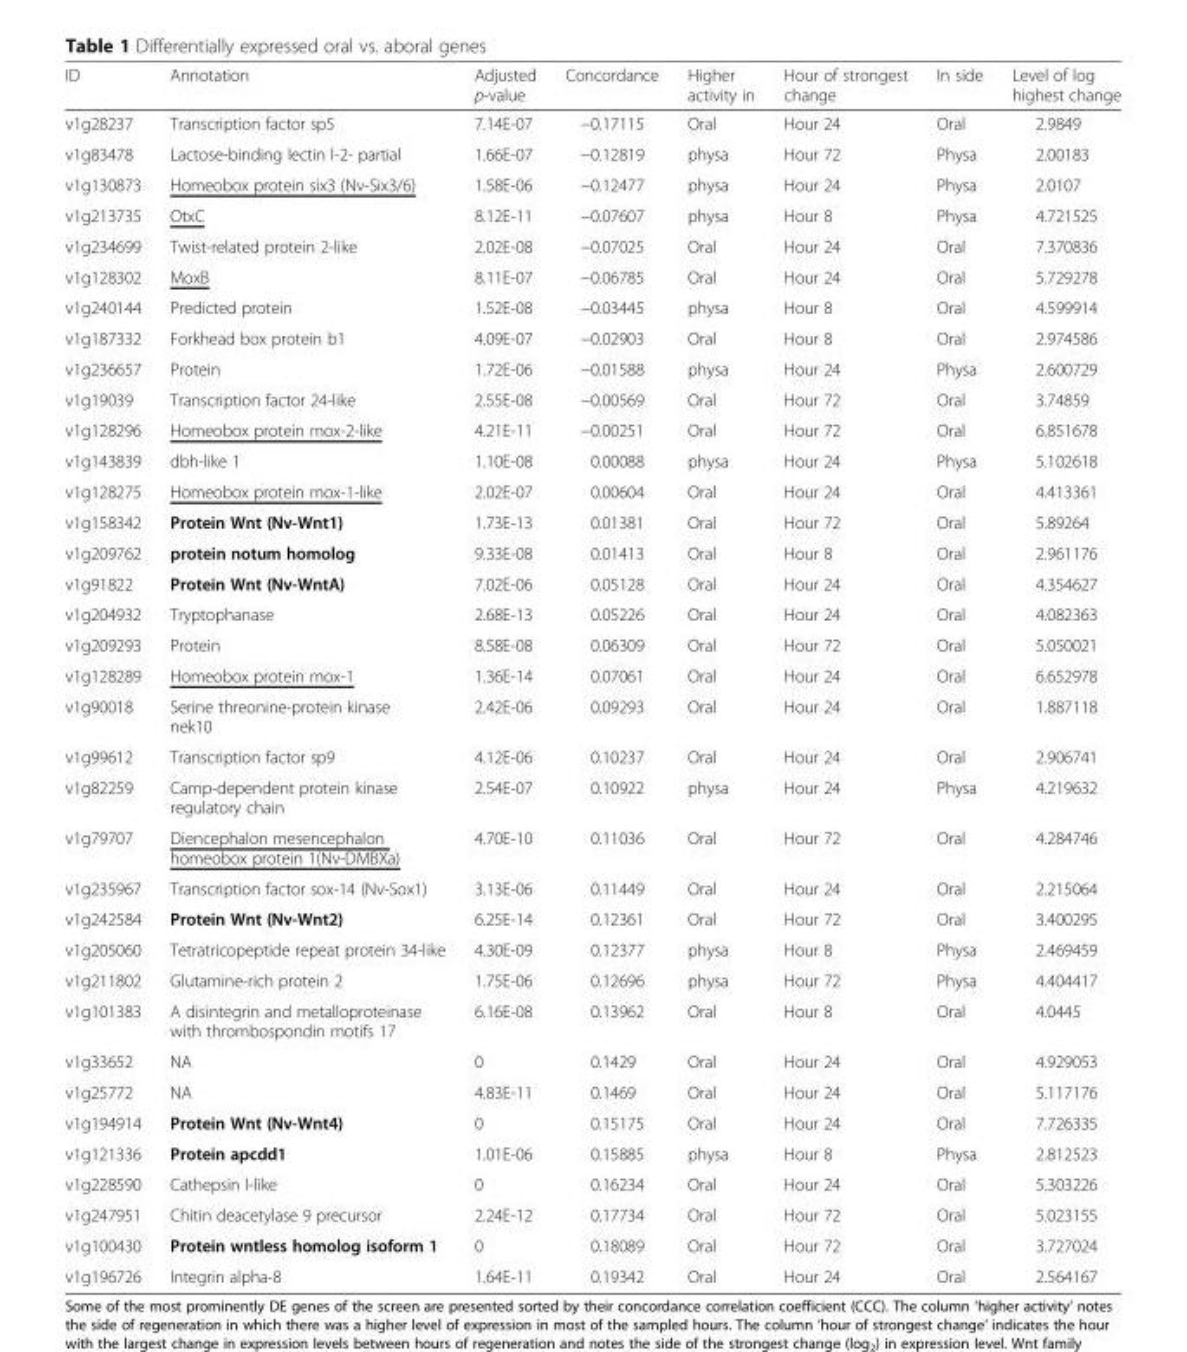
<table><thead><tr><td>ID</td><td>Annotation</td><td>Adjusted p-value</td><td>Concordance</td><td>Higher activity in</td><td>Hour of strongest change</td><td>In side</td><td>Level of log highest change</td></tr></thead><tbody><tr><td>v1g28237</td><td>Transcription factor sp5</td><td>7.14E-07</td><td>−0.17115</td><td>Oral</td><td>Hour 24</td><td>Oral</td><td>2.9849</td></tr><tr><td>v1g83478</td><td>Lactose-binding lectin l-2- partial</td><td>1.66E-07</td><td>−0.12819</td><td>physa</td><td>Hour 72</td><td>Physa</td><td>2.00183</td></tr><tr><td>v1g130873</td><td>Homeobox protein six3 (Nv-Six3/6)</td><td>1.58E-06</td><td>−0.12477</td><td>physa</td><td>Hour 24</td><td>Physa</td><td>2.0107</td></tr><tr><td>v1g213735</td><td>OtxC</td><td>8.12E-11</td><td>−0.07607</td><td>physa</td><td>Hour 8</td><td>Physa</td><td>4.721525</td></tr><tr><td>v1g234699</td><td>Twist-related protein 2-like</td><td>2.02E-08</td><td>−0.07025</td><td>Oral</td><td>Hour 24</td><td>Oral</td><td>7.370836</td></tr><tr><td>v1g128302</td><td>MoxB</td><td>8.11E-07</td><td>−0.06785</td><td>Oral</td><td>Hour 24</td><td>Oral</td><td>5.729278</td></tr><tr><td>v1g240144</td><td>Predicted protein</td><td>1.52E-08</td><td>−0.03445</td><td>physa</td><td>Hour 8</td><td>Oral</td><td>4.599914</td></tr><tr><td>v1g187332</td><td>Forkhead box protein b1</td><td>4.09E-07</td><td>−0.02903</td><td>Oral</td><td>Hour 8</td><td>Oral</td><td>2.974586</td></tr><tr><td>v1g236657</td><td>Protein</td><td>1.72E-06</td><td>−0.01588</td><td>physa</td><td>Hour 24</td><td>Physa</td><td>2.600729</td></tr><tr><td>v1g19039</td><td>Transcription factor 24-like</td><td>2.55E-08</td><td>−0.00569</td><td>Oral</td><td>Hour 72</td><td>Oral</td><td>3.74859</td></tr><tr><td>v1g128296</td><td>Homeobox protein mox-2-like</td><td>4.21E-11</td><td>−0.00251</td><td>Oral</td><td>Hour 72</td><td>Oral</td><td>6.851678</td></tr><tr><td>v1g143839</td><td>dbh-like 1</td><td>1.10E-08</td><td>0.00088</td><td>physa</td><td>Hour 24</td><td>Physa</td><td>5.102618</td></tr><tr><td>v1g128275</td><td>Homeobox protein mox-1-like</td><td>2.02E-07</td><td>0.00604</td><td>Oral</td><td>Hour 24</td><td>Oral</td><td>4.413361</td></tr><tr><td>v1g158342</td><td>Protein Wnt (Nv-Wnt1)</td><td>1.73E-13</td><td>0.01381</td><td>Oral</td><td>Hour 72</td><td>Oral</td><td>5.89264</td></tr><tr><td>v1g209762</td><td>protein notum homolog</td><td>9.33E-08</td><td>0.01413</td><td>Oral</td><td>Hour 8</td><td>Oral</td><td>2.961176</td></tr><tr><td>v1g91822</td><td>Protein Wnt (Nv-WntA)</td><td>7.02E-06</td><td>0.05128</td><td>Oral</td><td>Hour 24</td><td>Oral</td><td>4.354627</td></tr><tr><td>v1g204932</td><td>Tryptophanase</td><td>2.68E-13</td><td>0.05226</td><td>Oral</td><td>Hour 24</td><td>Oral</td><td>4.082363</td></tr><tr><td>v1g209293</td><td>Protein</td><td>8.58E-08</td><td>0.06309</td><td>Oral</td><td>Hour 72</td><td>Oral</td><td>5.050021</td></tr><tr><td>v1g128289</td><td>Homeobox protein mox-1</td><td>1.36E-14</td><td>0.07061</td><td>Oral</td><td>Hour 24</td><td>Oral</td><td>6.652978</td></tr><tr><td>v1g90018</td><td>Serine threonine-protein kinase nek10</td><td>2.42E-06</td><td>0.09293</td><td>Oral</td><td>Hour 24</td><td>Oral</td><td>1.887118</td></tr><tr><td>v1g99612</td><td>Transcription factor sp9</td><td>4.12E-06</td><td>0.10237</td><td>Oral</td><td>Hour 24</td><td>Oral</td><td>2.906741</td></tr><tr><td>v1g82259</td><td>Camp-dependent protein kinase regulatory chain</td><td>2.54E-07</td><td>0.10922</td><td>physa</td><td>Hour 24</td><td>Physa</td><td>4.219632</td></tr><tr><td>v1g79707</td><td>Diencephalon mesencephalon homeobox protein 1(Nv-DMBXa)</td><td>4.70E-10</td><td>0.11036</td><td>Oral</td><td>Hour 72</td><td>Oral</td><td>4.284746</td></tr><tr><td>v1g235967</td><td>Transcription factor sox-14 (Nv-Sox1)</td><td>3.13E-06</td><td>0.11449</td><td>Oral</td><td>Hour 24</td><td>Oral</td><td>2.215064</td></tr><tr><td>v1g242584</td><td>Protein Wnt (Nv-Wnt2)</td><td>6.25E-14</td><td>0.12361</td><td>Oral</td><td>Hour 72</td><td>Oral</td><td>3.400295</td></tr><tr><td>v1g205060</td><td>Tetratricopeptide repeat protein 34-like</td><td>4.30E-09</td><td>0.12377</td><td>physa</td><td>Hour 8</td><td>Physa</td><td>2.469459</td></tr><tr><td>v1g211802</td><td>Glutamine-rich protein 2</td><td>1.75E-06</td><td>0.12696</td><td>physa</td><td>Hour 72</td><td>Physa</td><td>4.404417</td></tr><tr><td>v1g101383</td><td>A disintegrin and metalloproteinase with thrombospondin motifs 17</td><td>6.16E-08</td><td>0.13962</td><td>Oral</td><td>Hour 8</td><td>Oral</td><td>4.0445</td></tr><tr><td>v1g33652</td><td>NA</td><td>0</td><td>0.1429</td><td>Oral</td><td>Hour 24</td><td>Oral</td><td>4.929053</td></tr><tr><td>v1g25772</td><td>NA</td><td>4.83E-11</td><td>0.1469</td><td>Oral</td><td>Hour 24</td><td>Oral</td><td>5.117176</td></tr><tr><td>v1g194914</td><td>Protein Wnt (Nv-Wnt4)</td><td>0</td><td>0.15175</td><td>Oral</td><td>Hour 24</td><td>Oral</td><td>7.726335</td></tr><tr><td>v1g121336</td><td>Protein apcdd1</td><td>1.01E-06</td><td>0.15885</td><td>physa</td><td>Hour 8</td><td>Physa</td><td>2.812523</td></tr><tr><td>v1g228590</td><td>Cathepsin l-like</td><td>0</td><td>0.16234</td><td>Oral</td><td>Hour 24</td><td>Oral</td><td>5.303226</td></tr><tr><td>v1g247951</td><td>Chitin deacetylase 9 precursor</td><td>2.24E-12</td><td>0.17734</td><td>Oral</td><td>Hour 72</td><td>Oral</td><td>5.023155</td></tr><tr><td>v1g100430</td><td>Protein wntless homolog isoform 1</td><td>0</td><td>0.18089</td><td>Oral</td><td>Hour 72</td><td>Oral</td><td>3.727024</td></tr><tr><td>v1g196726</td><td>Integrin alpha-8</td><td>1.64E-11</td><td>0.19342</td><td>Oral</td><td>Hour 24</td><td>Oral</td><td>2.564167</td></tr></tbody></table>